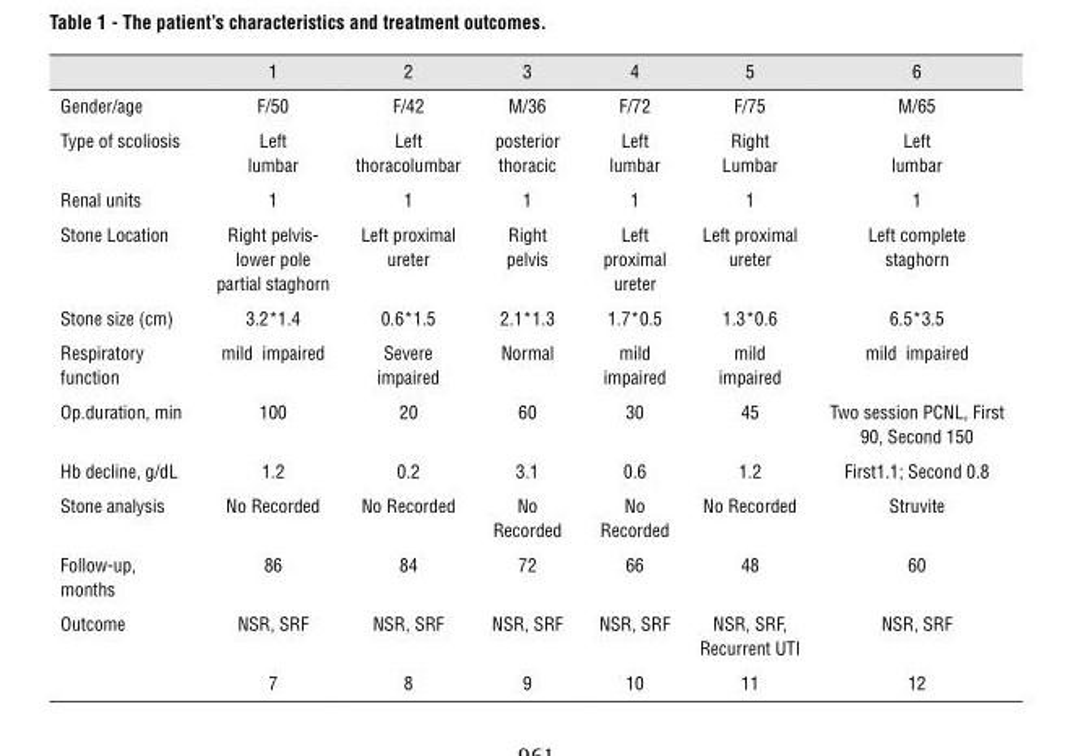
<table><thead><tr><td></td><td>1</td><td>2</td><td>3</td><td>4</td><td>5</td><td>6</td></tr></thead><tbody><tr><td>Gender/age</td><td>F/50</td><td>F/42</td><td>M/36</td><td>F/72</td><td>F/75</td><td>M/65</td></tr><tr><td>Type of scoliosis</td><td>Left lumbar</td><td>Left thoracolumbar</td><td>posterior thoracic</td><td>Left lumbar</td><td>Right Lumbar</td><td>Left lumbar</td></tr><tr><td>Renal units</td><td>1</td><td>1</td><td>1</td><td>1</td><td>1</td><td>1</td></tr><tr><td>Stone Location</td><td>Right pelvis- lower pole partial staghorn</td><td>Left proximal ureter</td><td>Right pelvis</td><td>Left proximal ureter</td><td>Left proximal ureter</td><td>Left complete staghorn</td></tr><tr><td>Stone size (cm)</td><td>3.2*1.4</td><td>0.6*1.5</td><td>2.1*1.3</td><td>1.7*0.5</td><td>1.3*0.6</td><td>6.5*3.5</td></tr><tr><td>Respiratory function</td><td>mild impaired</td><td>Severe impaired</td><td>Normal</td><td>mild impaired</td><td>mild impaired</td><td>mild impaired</td></tr><tr><td>Op.duration, min</td><td>100</td><td>20</td><td>60</td><td>30</td><td>45</td><td>Two session PCNL, First 90, Second 150</td></tr><tr><td>Hb decline, g/dL</td><td>1.2</td><td>0.2</td><td>3.1</td><td>0.6</td><td>1.2</td><td>First1.1; Second 0.8</td></tr><tr><td>Stone analysis</td><td>No Recorded</td><td>No Recorded</td><td>No Recorded</td><td>No Recorded</td><td>No Recorded</td><td>Struvite</td></tr><tr><td>Follow-up, months</td><td>86</td><td>84</td><td>72</td><td>66</td><td>48</td><td>60</td></tr><tr><td rowspan="2">Outcome</td><td>NSR, SRF</td><td>NSR, SRF</td><td>NSR, SRF</td><td>NSR, SRF</td><td>NSR, SRF, Recurrent UTI</td><td>NSR, SRF</td></tr><tr><td>7</td><td>8</td><td>9</td><td>10</td><td>11</td><td>12</td></tr></tbody></table>